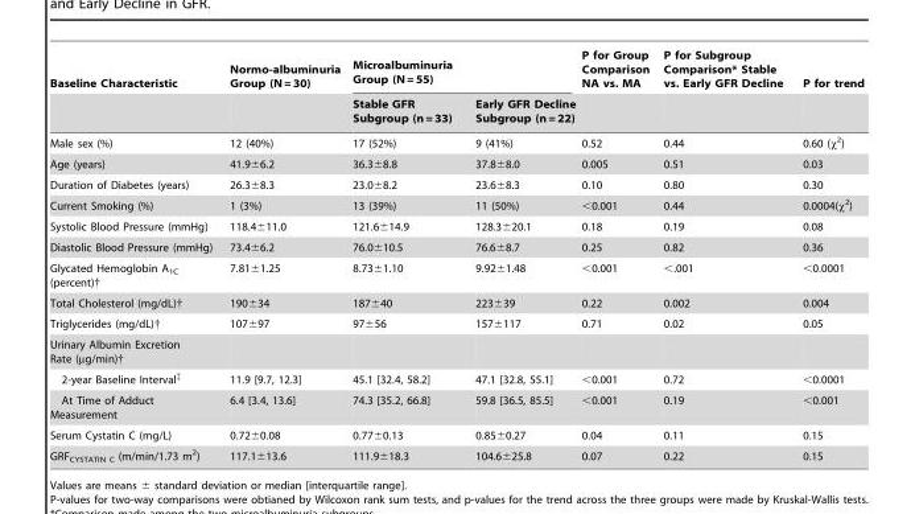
<table><thead><tr><td rowspan="2">Baseline Characteristic</td><td rowspan="2">Normo-albuminuria Group (N = 30)</td><td colspan="2">Microalbuminuria Group (N = 55)</td><td rowspan="2">P for Group Comparison NA vs. MA</td><td rowspan="2">P for Subgroup Comparison* Stable vs. Early GFR Decline</td><td rowspan="2">P for trend</td></tr><tr><td>Stable GFR Subgroup (n = 33)</td><td>Early GFR Decline Subgroup (n = 22)</td></tr></thead><tbody><tr><td>Male sex (%)</td><td>12 (40%)</td><td>17 (52%)</td><td>9 (41%)</td><td>0.52</td><td>0.44</td><td>0.60 (χ<sup>2</sup>)</td></tr><tr><td>Age (years)</td><td>41.9±6.2</td><td>36.3±8.8</td><td>37.8±8.0</td><td>0.005</td><td>0.51</td><td>0.03</td></tr><tr><td>Duration of Diabetes (years)</td><td>26.3±8.3</td><td>23.0±8.2</td><td>23.6±8.3</td><td>0.10</td><td>0.80</td><td>0.30</td></tr><tr><td>Current Smoking (%)</td><td>1 (3%)</td><td>13 (39%)</td><td>11 (50%)</td><td>&lt;0.001</td><td>0.44</td><td>0.0004(χ<sup>2</sup>)</td></tr><tr><td>Systolic Blood Pressure (mmHg)</td><td>118.4±11.0</td><td>121.6±14.9</td><td>128.3±20.1</td><td>0.18</td><td>0.19</td><td>0.08</td></tr><tr><td>Diastolic Blood Pressure (mmHg)</td><td>73.4±6.2</td><td>76.0±10.5</td><td>76.6±8.7</td><td>0.25</td><td>0.82</td><td>0.36</td></tr><tr><td>Glycated Hemoglobin A<sub>1C</sub> (percent)†</td><td>7.81±1.25</td><td>8.73±1.10</td><td>9.92±1.48</td><td>&lt;0.001</td><td>&lt;.001</td><td>&lt;0.0001</td></tr><tr><td>Total Cholesterol (mg/dL)†</td><td>190±34</td><td>187±40</td><td>223±39</td><td>0.22</td><td>0.002</td><td>0.004</td></tr><tr><td>Triglycerides (mg/dL)†</td><td>107±97</td><td>97±56</td><td>157±117</td><td>0.71</td><td>0.02</td><td>0.05</td></tr><tr><td colspan="7">Urinary Albumin Excretion Rate (µg/min)†</td></tr><tr><td>2-year Baseline Interval<sup>‡</sup></td><td>11.9 [9.7, 12.3]</td><td>45.1 [32.4, 58.2]</td><td>47.1 [32.8, 55.1]</td><td>&lt;0.001</td><td>0.72</td><td>&lt;0.0001</td></tr><tr><td>At Time of Adduct Measurement</td><td>6.4 [3.4, 13.6]</td><td>74.3 [35.2, 66.8]</td><td>59.8 [36.5, 85.5]</td><td>&lt;0.001</td><td>0.19</td><td>&lt;0.001</td></tr><tr><td>Serum Cystatin C (mg/L)</td><td>0.72±0.08</td><td>0.77±0.13</td><td>0.85±0.27</td><td>0.04</td><td>0.11</td><td>0.15</td></tr><tr><td>GRF<sub>CYSTATIN C</sub> (m/min/1.73 m<sup>2</sup>)</td><td>117.1±13.6</td><td>111.9±18.3</td><td>104.6±25.8</td><td>0.07</td><td>0.22</td><td>0.15</td></tr></tbody></table>